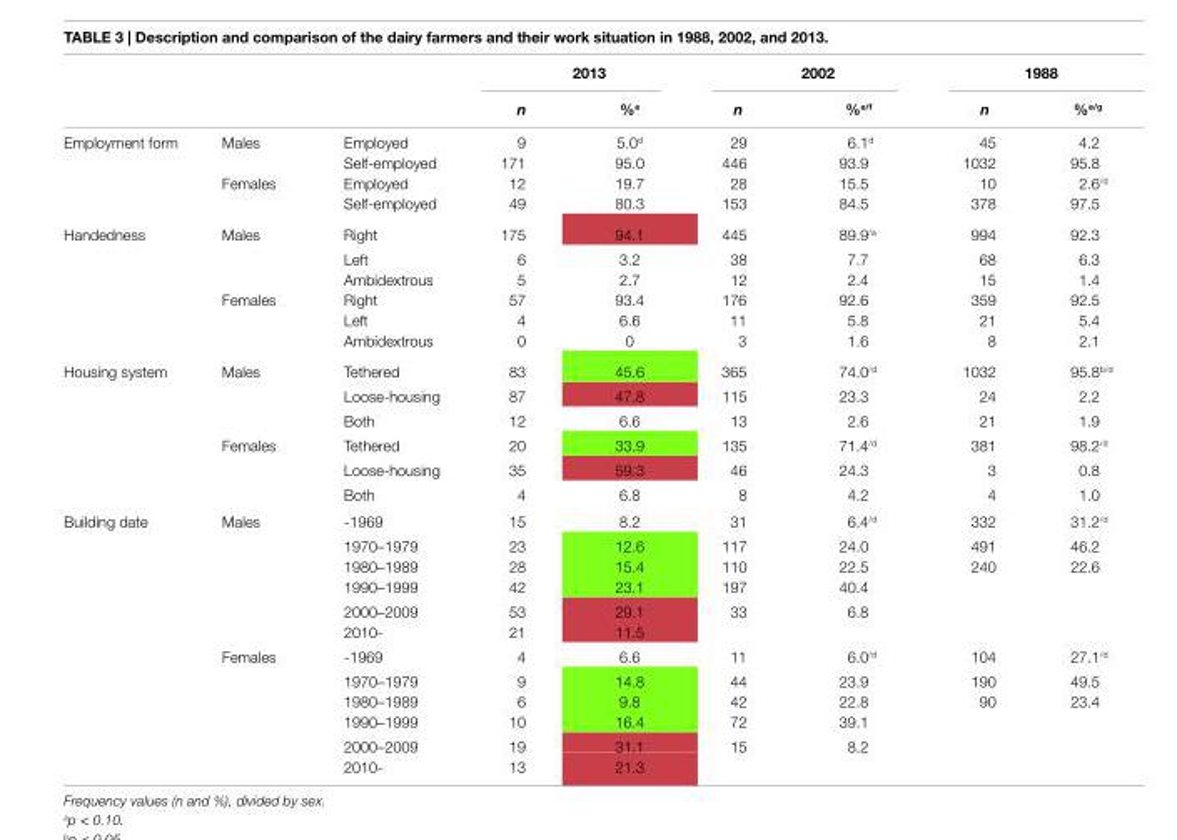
<table><thead><tr><td rowspan="2"></td><td rowspan="2"></td><td rowspan="2"></td><td colspan="2">2013</td><td colspan="2">2002</td><td colspan="2">1988</td></tr><tr><td>n</td><td>%<sup>e</sup></td><td>n</td><td>%<sup>e/f</sup></td><td>n</td><td>%<sup>e/g</sup></td></tr></thead><tbody><tr><td rowspan="4">Employment form</td><td>Males</td><td>Employed</td><td>9</td><td>5.0<sup>d</sup></td><td>29</td><td>6.1<sup>d</sup></td><td>45</td><td>4.2</td></tr><tr><td></td><td>Self-employed</td><td>171</td><td>95.0</td><td>446</td><td>93.9</td><td>1032</td><td>95.8</td></tr><tr><td>Females</td><td>Employed</td><td>12</td><td>19.7</td><td>28</td><td>15.5</td><td>10</td><td>2.6<sup>/d</sup></td></tr><tr><td></td><td>Self-employed</td><td>49</td><td>80.3</td><td>153</td><td>84.5</td><td>378</td><td>97.5</td></tr><tr><td rowspan="6">Handedness</td><td>Males</td><td>Right</td><td>175</td><td>94.1</td><td>445</td><td>89.9<sup>/a</sup></td><td>994</td><td>92.3</td></tr><tr><td></td><td>Left</td><td>6</td><td>3.2</td><td>38</td><td>7.7</td><td>68</td><td>6.3</td></tr><tr><td></td><td>Ambidextrous</td><td>5</td><td>2.7</td><td>12</td><td>2.4</td><td>15</td><td>1.4</td></tr><tr><td>Females</td><td>Right</td><td>57</td><td>93.4</td><td>176</td><td>92.6</td><td>359</td><td>92.5</td></tr><tr><td></td><td>Left</td><td>4</td><td>6.6</td><td>11</td><td>5.8</td><td>21</td><td>5.4</td></tr><tr><td></td><td>Ambidextrous</td><td>0</td><td>0</td><td>3</td><td>1.6</td><td>8</td><td>2.1</td></tr><tr><td rowspan="6">Housing system</td><td>Males</td><td>Tethered</td><td>83</td><td>45.6</td><td>365</td><td>74.0<sup>/d</sup></td><td>1032</td><td>95.8<sup>b/d</sup></td></tr><tr><td></td><td>Loose-housing</td><td>87</td><td>47.8</td><td>115</td><td>23.3</td><td>24</td><td>2.2</td></tr><tr><td></td><td>Both</td><td>12</td><td>6.6</td><td>13</td><td>2.6</td><td>21</td><td>1.9</td></tr><tr><td>Females</td><td>Tethered</td><td>20</td><td>33.9</td><td>135</td><td>71.4<sup>/d</sup></td><td>381</td><td>98.2<sup>/d</sup></td></tr><tr><td></td><td>Loose-housing</td><td>35</td><td>59.3</td><td>46</td><td>24.3</td><td>3</td><td>0.8</td></tr><tr><td></td><td>Both</td><td>4</td><td>6.8</td><td>8</td><td>4.2</td><td>4</td><td>1.0</td></tr><tr><td rowspan="12">Building date</td><td>Males</td><td>-1969</td><td>15</td><td>8.2</td><td>31</td><td>6.4<sup>/d</sup></td><td>332</td><td>31.2<sup>/d</sup></td></tr><tr><td></td><td>1970–1979</td><td>23</td><td>12.6</td><td>117</td><td>24.0</td><td>491</td><td>46.2</td></tr><tr><td></td><td>1980–1989</td><td>28</td><td>15.4</td><td>110</td><td>22.5</td><td>240</td><td>22.6</td></tr><tr><td></td><td>1990–1999</td><td>42</td><td>23.1</td><td>197</td><td>40.4</td><td></td><td></td></tr><tr><td></td><td>2000–2009</td><td>53</td><td>29.1</td><td>33</td><td>6.8</td><td></td><td></td></tr><tr><td></td><td>2010-</td><td>21</td><td>11.5</td><td></td><td></td><td></td><td></td></tr><tr><td>Females</td><td>-1969</td><td>4</td><td>6.6</td><td>11</td><td>6.0<sup>/d</sup></td><td>104</td><td>27.1<sup>/d</sup></td></tr><tr><td></td><td>1970–1979</td><td>9</td><td>14.8</td><td>44</td><td>23.9</td><td>190</td><td>49.5</td></tr><tr><td></td><td>1980–1989</td><td>6</td><td>9.8</td><td>42</td><td>22.8</td><td>90</td><td>23.4</td></tr><tr><td></td><td>1990–1999</td><td>10</td><td>16.4</td><td>72</td><td>39.1</td><td></td><td></td></tr><tr><td></td><td>2000–2009</td><td>19</td><td>31.1</td><td>15</td><td>8.2</td><td></td><td></td></tr><tr><td></td><td>2010-</td><td>13</td><td>21.3</td><td></td><td></td><td></td><td></td></tr></tbody></table>